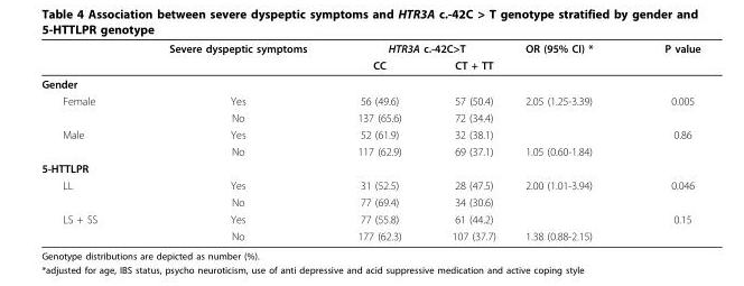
<table><thead><tr><td rowspan="2"></td><td rowspan="2">Severe dyspeptic symptoms</td><td colspan="2">HTR3A c.-42C&gt;T</td><td rowspan="2">OR (95% CI) *</td><td rowspan="2">P value</td></tr><tr><td>CC</td><td>CT + TT</td></tr></thead><tbody><tr><td colspan="6">Gender</td></tr><tr><td rowspan="2">Female</td><td>Yes</td><td>56 (49.6)</td><td>57 (50.4)</td><td>2.05 (1.25-3.39)</td><td>0.005</td></tr><tr><td>No</td><td>137 (65.6)</td><td>72 (34.4)</td><td></td><td></td></tr><tr><td rowspan="2">Male</td><td>Yes</td><td>52 (61.9)</td><td>32 (38.1)</td><td></td><td>0.86</td></tr><tr><td>No</td><td>117 (62.9)</td><td>69 (37.1)</td><td>1.05 (0.60-1.84)</td><td></td></tr><tr><td colspan="6">5-HTTLPR</td></tr><tr><td rowspan="2">LL</td><td>Yes</td><td>31 (52.5)</td><td>28 (47.5)</td><td>2.00 (1.01-3.94)</td><td>0.046</td></tr><tr><td>No</td><td>77 (69.4)</td><td>34 (30.6)</td><td></td><td></td></tr><tr><td rowspan="2">LS + SS</td><td>Yes</td><td>77 (55.8)</td><td>61 (44.2)</td><td></td><td>0.15</td></tr><tr><td>No</td><td>177 (62.3)</td><td>107 (37.7)</td><td>1.38 (0.88-2.15)</td><td></td></tr></tbody></table>